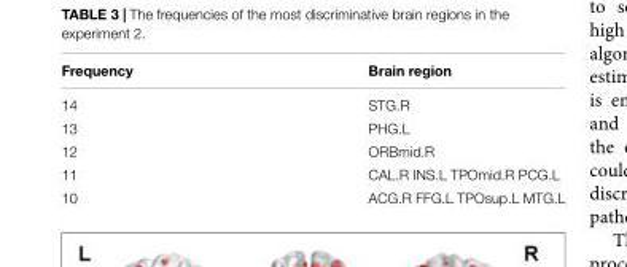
<table><thead><tr><td>Frequency</td><td>Brain region</td></tr></thead><tbody><tr><td>14</td><td>STG.R</td></tr><tr><td>13</td><td>PHG.L</td></tr><tr><td>12</td><td>ORBmid.R</td></tr><tr><td>11</td><td>CAL.R INS.L TPOmid.R PCG.L</td></tr><tr><td>10</td><td>ACG.R FFG.L TPOsup.L MTG.L</td></tr></tbody></table>